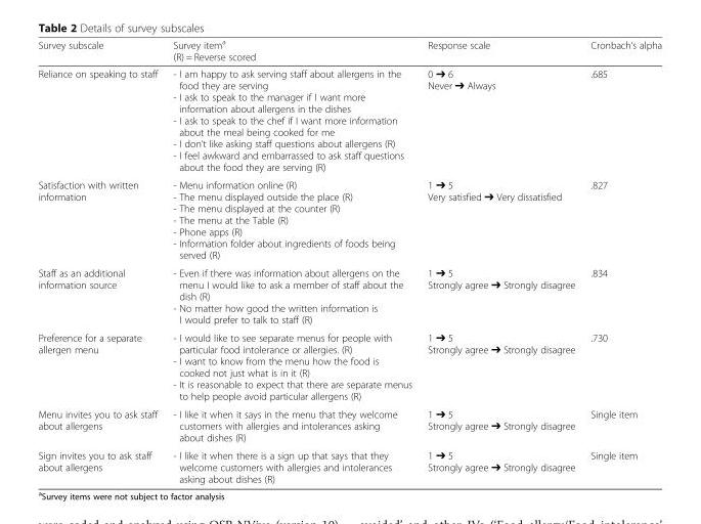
<table><thead><tr><td>Survey subscale</td><td>Survey item<sup>a</sup> (R) = Reverse scored</td><td>Response scale</td><td>Cronbach’s alpha</td></tr></thead><tbody><tr><td>Reliance on speaking to staff</td><td>- I am happy to ask serving staff about allergens in the food they are serving - I ask to speak to the manager if I want more information about allergens in the dishes - I ask to speak to the chef if I want more information about the meal being cooked for me - I don’t like asking staff questions about allergens (R) - I feel awkward and embarrassed to ask staff questions about the food they are serving (R)</td><td>0 ➔ 6 Never ➔ Always</td><td>.685</td></tr><tr><td>Satisfaction with written information</td><td>- Menu information online (R) - The menu displayed outside the place (R) - The menu displayed at the counter (R) - The menu at the Table (R) - Phone apps (R) - Information folder about ingredients of foods being served (R)</td><td>1 ➔ 5 Very satisfied ➔ Very dissatisfied</td><td>.827</td></tr><tr><td>Staff as an additional information source</td><td>- Even if there was information about allergens on the menu I would like to ask a member of staff about the dish (R) - No matter how good the written information is I would prefer to talk to staff (R)</td><td>1 ➔ 5 Strongly agree ➔ Strongly disagree</td><td>.834</td></tr><tr><td>Preference for a separate allergen menu</td><td>- I would like to see separate menus for people with particular food intolerance or allergies. (R) - I want to know from the menu how the food is cooked not just what is in it (R) - It is reasonable to expect that there are separate menus to help people avoid particular allergens (R)</td><td>1 ➔ 5 Strongly agree ➔ Strongly disagree</td><td>.730</td></tr><tr><td>Menu invites you to ask staff about allergens</td><td>- I like it when it says in the menu that they welcome customers with allergies and intolerances asking about dishes (R)</td><td>1 ➔ 5 Strongly agree ➔ Strongly disagree</td><td>Single item</td></tr><tr><td>Sign invites you to ask staff about allergens</td><td>- I like it when there is a sign up that says that they welcome customers with allergies and intolerances asking about dishes (R)</td><td>1 ➔ 5 Strongly agree ➔ Strongly disagree</td><td>Single item</td></tr></tbody></table>